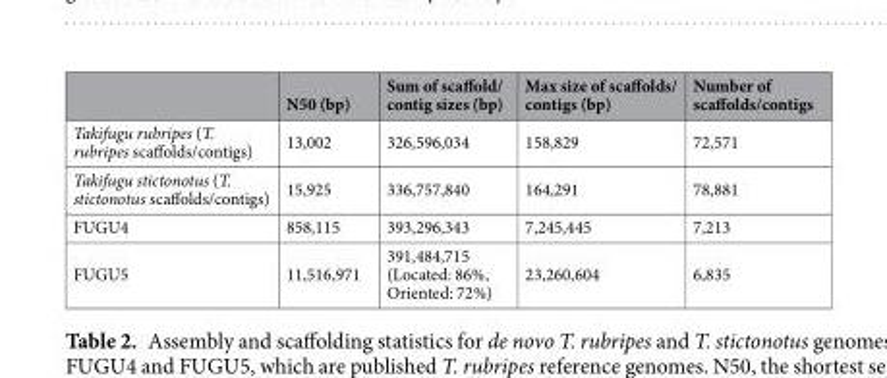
<table><thead><tr><td></td><td>N50 (bp)</td><td>Sum of scaffold/ contig sizes (bp)</td><td>Max size of scaffolds/ contigs (bp)</td><td>Number of scaffolds/contigs</td></tr></thead><tbody><tr><td>Takifugu rubripes (T. rubripes scaffolds/contigs)</td><td>13,002</td><td>326,596,034</td><td>158,829</td><td>72,571</td></tr><tr><td>Takifugu stictonotus (T. stictonotus scaffolds/contigs)</td><td>15,925</td><td>336,757,840</td><td>164,291</td><td>78,881</td></tr><tr><td>FUGU4</td><td>858,115</td><td>393,296,343</td><td>7,245,445</td><td>7,213</td></tr><tr><td>FUGU5</td><td>11,516,971</td><td>391,484,715 (Located: 86%, Oriented: 72%)</td><td>23,260,604</td><td>6,835</td></tr></tbody></table>